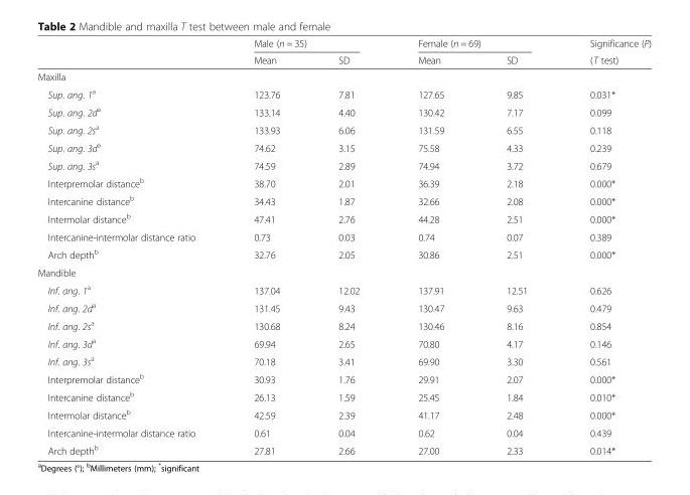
<table><thead><tr><td rowspan="2"></td><td colspan="2">Male (n = 35)</td><td colspan="2">Female (n = 69)</td><td rowspan="2">Significance (P) (T test)</td></tr><tr><td>Mean</td><td>SD</td><td>Mean</td><td>SD</td></tr></thead><tbody><tr><td colspan="6">Maxilla</td></tr><tr><td>Sup. ang. 1<sup>a</sup></td><td>123.76</td><td>7.81</td><td>127.65</td><td>9.85</td><td>0.031*</td></tr><tr><td>Sup. ang. 2d<sup>a</sup></td><td>133.14</td><td>4.40</td><td>130.42</td><td>7.17</td><td>0.099</td></tr><tr><td>Sup. ang. 2s<sup>a</sup></td><td>133.93</td><td>6.06</td><td>131.59</td><td>6.55</td><td>0.118</td></tr><tr><td>Sup. ang. 3d<sup>a</sup></td><td>74.62</td><td>3.15</td><td>75.58</td><td>4.33</td><td>0.239</td></tr><tr><td>Sup. ang. 3s<sup>a</sup></td><td>74.59</td><td>2.89</td><td>74.94</td><td>3.72</td><td>0.679</td></tr><tr><td>Interpremolar distance<sup>b</sup></td><td>38.70</td><td>2.01</td><td>36.39</td><td>2.18</td><td>0.000*</td></tr><tr><td>Intercanine distance<sup>b</sup></td><td>34.43</td><td>1.87</td><td>32.66</td><td>2.08</td><td>0.000*</td></tr><tr><td>Intermolar distance<sup>b</sup></td><td>47.41</td><td>2.76</td><td>44.28</td><td>2.51</td><td>0.000*</td></tr><tr><td>Intercanine-intermolar distance ratio</td><td>0.73</td><td>0.03</td><td>0.74</td><td>0.07</td><td>0.389</td></tr><tr><td>Arch depth<sup>b</sup></td><td>32.76</td><td>2.05</td><td>30.86</td><td>2.51</td><td>0.000*</td></tr><tr><td colspan="6">Mandible</td></tr><tr><td>Inf. ang. 1<sup>a</sup></td><td>137.04</td><td>12.02</td><td>137.91</td><td>12.51</td><td>0.626</td></tr><tr><td>Inf. ang. 2d<sup>a</sup></td><td>131.45</td><td>9.43</td><td>130.47</td><td>9.63</td><td>0.479</td></tr><tr><td>Inf. ang. 2s<sup>a</sup></td><td>130.68</td><td>8.24</td><td>130.46</td><td>8.16</td><td>0.854</td></tr><tr><td>Inf. ang. 3d<sup>a</sup></td><td>69.94</td><td>2.65</td><td>70.80</td><td>4.17</td><td>0.146</td></tr><tr><td>Inf. ang. 3s<sup>a</sup></td><td>70.18</td><td>3.41</td><td>69.90</td><td>3.30</td><td>0.561</td></tr><tr><td>Interpremolar distance<sup>b</sup></td><td>30.93</td><td>1.76</td><td>29.91</td><td>2.07</td><td>0.000*</td></tr><tr><td>Intercanine distance<sup>b</sup></td><td>26.13</td><td>1.59</td><td>25.45</td><td>1.84</td><td>0.010*</td></tr><tr><td>Intermolar distance<sup>b</sup></td><td>42.59</td><td>2.39</td><td>41.17</td><td>2.48</td><td>0.000*</td></tr><tr><td>Intercanine-intermolar distance ratio</td><td>0.61</td><td>0.04</td><td>0.62</td><td>0.04</td><td>0.439</td></tr><tr><td>Arch depth<sup>b</sup></td><td>27.81</td><td>2.66</td><td>27.00</td><td>2.33</td><td>0.014*</td></tr></tbody></table>